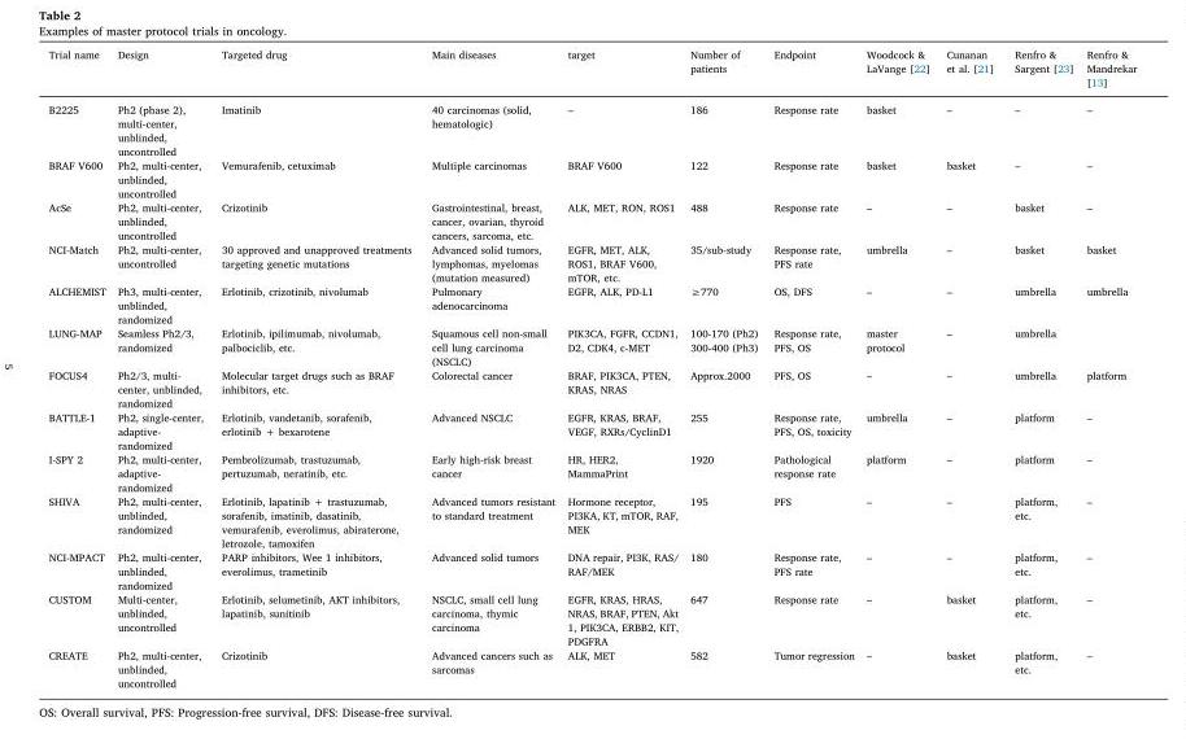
<table><thead><tr><td>Trial name</td><td>Design</td><td>Targeted drug</td><td>Main diseases</td><td>target</td><td>Number of patients</td><td>Endpoint</td><td>Woodcock &amp; LaVange [22]</td><td>Cunanan et al. [21]</td><td>Renfro &amp; Sargent [23]</td><td>Renfro &amp; Mandrekar [13]</td></tr></thead><tbody><tr><td>B2225</td><td>Ph2 (phase 2), multi-center, unblinded, uncontrolled</td><td>Imatinib</td><td>40 carcinomas (solid, hematologic)</td><td>–</td><td>186</td><td>Response rate</td><td>basket</td><td>–</td><td>–</td><td>–</td></tr><tr><td>BRAF V600</td><td>Ph2, multi-center, unblinded, uncontrolled</td><td>Vemurafenib, cetuximab</td><td>Multiple carcinomas</td><td>BRAF V600</td><td>122</td><td>Response rate</td><td>basket</td><td>basket</td><td>–</td><td>–</td></tr><tr><td>AcSe</td><td>Ph2, multi-center, unblinded, uncontrolled</td><td>Crizotinib</td><td>Gastrointestinal, breast, cancer, ovarian, thyroid cancers, sarcoma, etc.</td><td>ALK, MET, RON, ROS1</td><td>488</td><td>Response rate</td><td>–</td><td>–</td><td>basket</td><td>–</td></tr><tr><td>NCI-Match</td><td>Ph2, multi-center, uncontrolled</td><td>30 approved and unapproved treatments targeting genetic mutations</td><td>Advanced solid tumors, lymphomas, myelomas (mutation measured)</td><td>EGFR, MET, ALK, ROS1, BRAF V600, mTOR, etc.</td><td>35/sub-study</td><td>Response rate, PFS rate</td><td>umbrella</td><td>–</td><td>basket</td><td>basket</td></tr><tr><td>ALCHEMIST</td><td>Ph3, multi-center, unblinded, randomized</td><td>Erlotinib, crizotinib, nivolumab</td><td>Pulmonary adenocarcinoma</td><td>EGFR, ALK, PD-L1</td><td>≥770</td><td>OS, DFS</td><td>–</td><td>–</td><td>umbrella</td><td>umbrella</td></tr><tr><td>LUNG-MAP</td><td>Seamless Ph2/3, randomized</td><td>Erlotinib, ipilimumab, nivolumab, palbociclib, etc.</td><td>Squamous cell non-small cell lung carcinoma (NSCLC)</td><td>PIK3CA, FGFR, CCDN1, D2, CDK4, c-MET</td><td>100-170 (Ph2) 300-400 (Ph3)</td><td>Response rate, PFS, OS</td><td>master protocol</td><td>–</td><td>umbrella</td><td></td></tr><tr><td>FOCUS4</td><td>Ph2/3, multi- center, unblinded, randomized</td><td>Molecular target drugs such as BRAF inhibitors, etc.</td><td>Colorectal cancer</td><td>BRAF, PIK3CA, PTEN, KRAS, NRAS</td><td>Approx.2000</td><td>PFS, OS</td><td>–</td><td>–</td><td>umbrella</td><td>platform</td></tr><tr><td>BATTLE-1</td><td>Ph2, single-center, adaptive- randomized</td><td>Erlotinib, vandetanib, sorafenib, erlotinib + bexarotene</td><td>Advanced NSCLC</td><td>EGFR, KRAS, BRAF, VEGF, RXRs/CyclinD1</td><td>255</td><td>Response rate, PFS, OS, toxicity</td><td>umbrella</td><td>–</td><td>platform</td><td>–</td></tr><tr><td>I-SPY 2</td><td>Ph2, multi-center, adaptive- randomized</td><td>Pembrolizumab, trastuzumab, pertuzumab, neratinib, etc.</td><td>Early high-risk breast cancer</td><td>HR, HER2, MammaPrint</td><td>1920</td><td>Pathological response rate</td><td>platform</td><td>–</td><td>platform</td><td>–</td></tr><tr><td>SHIVA</td><td>Ph2, multi-center, unblinded, randomized</td><td>Erlotinib, lapatinib + trastuzumab, sorafenib, imatinib, dasatinib, vemurafenib, everolimus, abiraterone, letrozole, tamoxifen</td><td>Advanced tumors resistant to standard treatment</td><td>Hormone receptor, PI3KA, KT, mTOR, RAF, MEK</td><td>195</td><td>PFS</td><td>–</td><td>–</td><td>platform, etc.</td><td>–</td></tr><tr><td>NCI-MPACT</td><td>Ph2, multi-center, unblinded, randomized</td><td>PARP inhibitors, Wee 1 inhibitors, everolimus, trametinib</td><td>Advanced solid tumors</td><td>DNA repair, PI3K, RAS/ RAF/MEK</td><td>180</td><td>Response rate, PFS rate</td><td>–</td><td>–</td><td>platform, etc.</td><td>–</td></tr><tr><td>CUSTOM</td><td>Multi-center, unblinded, uncontrolled</td><td>Erlotinib, selumetinib, AKT inhibitors, lapatinib, sunitinib</td><td>NSCLC, small cell lung carcinoma, thymic carcinoma</td><td>EGFR, KRAS, HRAS, NRAS, BRAF, PTEN, Akt 1, PIK3CA, ERBB2, KIT, PDGFRA</td><td>647</td><td>Response rate</td><td>–</td><td>basket</td><td>platform, etc.</td><td>–</td></tr><tr><td>CREATE</td><td>Ph2, multi-center, unblinded, uncontrolled</td><td>Crizotinib</td><td>Advanced cancers such as sarcomas</td><td>ALK, MET</td><td>582</td><td>Tumor regression</td><td>–</td><td>basket</td><td>platform, etc.</td><td>–</td></tr></tbody></table>